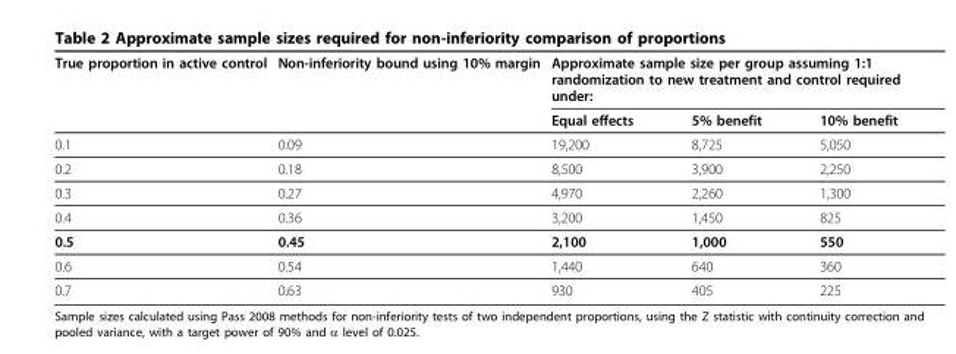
<table><thead><tr><td rowspan="2">True proportion in active control</td><td rowspan="2">Non-inferiority bound using 10% margin</td><td colspan="3">Approximate sample size per group assuming 1:1 randomization to new treatment and control required under:</td></tr><tr><td>Equal effects</td><td>5% benefit</td><td>10% benefit</td></tr></thead><tbody><tr><td>0.1</td><td>0.09</td><td>19,200</td><td>8,725</td><td>5,050</td></tr><tr><td>0.2</td><td>0.18</td><td>8,500</td><td>3,900</td><td>2,250</td></tr><tr><td>0.3</td><td>0.27</td><td>4,970</td><td>2,260</td><td>1,300</td></tr><tr><td>0.4</td><td>0.36</td><td>3,200</td><td>1,450</td><td>825</td></tr><tr><td>0.5</td><td>0.45</td><td>2,100</td><td>1,000</td><td>550</td></tr><tr><td>0.6</td><td>0.54</td><td>1,440</td><td>640</td><td>360</td></tr><tr><td>0.7</td><td>0.63</td><td>930</td><td>405</td><td>225</td></tr></tbody></table>